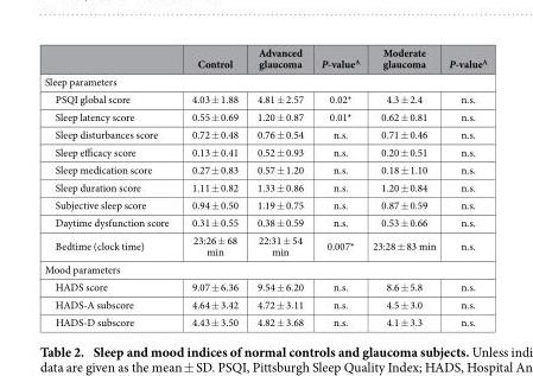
<table><thead><tr><td></td><td>Control</td><td>Advanced glaucoma</td><td>P-value<sup>A</sup></td><td>Moderate glaucoma</td><td>P-value<sup>A</sup></td></tr></thead><tbody><tr><td colspan="6">Sleep parameters</td></tr><tr><td>PSQI global score</td><td>4.03 ± 1.88</td><td>4.81 ± 2.57</td><td>0.02*</td><td>4.3 ± 2.4</td><td>n.s.</td></tr><tr><td>Sleep latency score</td><td>0.55 ± 0.69</td><td>1.20 ± 0.87</td><td>0.01*</td><td>0.62 ± 0.81</td><td>n.s.</td></tr><tr><td>Sleep disturbances score</td><td>0.72 ± 0.48</td><td>0.76 ± 0.54</td><td>n.s.</td><td>0.71 ± 0.46</td><td>n.s.</td></tr><tr><td>Sleep efficacy score</td><td>0.13 ± 0.41</td><td>0.52 ± 0.93</td><td>n.s.</td><td>0.20 ± 0.51</td><td>n.s.</td></tr><tr><td>Sleep medication score</td><td>0.27 ± 0.83</td><td>0.57 ± 1.20</td><td>n.s.</td><td>0.18 ± 1.10</td><td>n.s.</td></tr><tr><td>Sleep duration score</td><td>1.11 ± 0.82</td><td>1.33 ± 0.86</td><td>n.s.</td><td>1.20 ± 0.84</td><td>n.s.</td></tr><tr><td>Subjective sleep score</td><td>0.94 ± 0.50</td><td>1.19 ± 0.75</td><td>n.s.</td><td>0.87 ± 0.59</td><td>n.s.</td></tr><tr><td>Daytime dysfunction score</td><td>0.31 ± 0.55</td><td>0.38 ± 0.59</td><td>n.s.</td><td>0.53 ± 0.66</td><td>n.s.</td></tr><tr><td>Bedtime (clock time)</td><td>23:26 ± 68 min</td><td>22:31 ± 54 min</td><td>0.007*</td><td>23:28 ± 83 min</td><td>n.s.</td></tr><tr><td colspan="6">Mood parameters</td></tr><tr><td>HADS score</td><td>9.07 ± 6.36</td><td>9.54 ± 6.20</td><td>n.s.</td><td>8.6 ± 5.8</td><td>n.s.</td></tr><tr><td>HADS-A subscore</td><td>4.64 ± 3.42</td><td>4.72 ± 3.11</td><td>n.s.</td><td>4.5 ± 3.0</td><td>n.s.</td></tr><tr><td>HADS-D subscore</td><td>4.43 ± 3.50</td><td>4.82 ± 3.68</td><td>n.s.</td><td>4.1 ± 3.3</td><td>n.s.</td></tr></tbody></table>